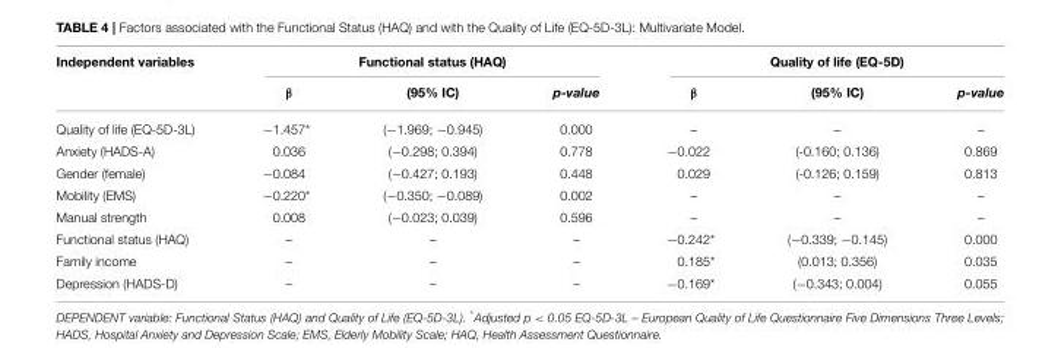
<table><thead><tr><td rowspan="2">Independent variables</td><td colspan="3">Functional status (HAQ)</td><td colspan="3">Quality of life (EQ-5D)</td></tr><tr><td>β</td><td>(95% IC)</td><td>p-value</td><td>β</td><td>(95% IC)</td><td>p-value</td></tr></thead><tbody><tr><td>Quality of life (EQ-5D-3L)</td><td>−1.457*</td><td>(−1.969; −0.945)</td><td>0.000</td><td>–</td><td>–</td><td>–</td></tr><tr><td>Anxiety (HADS-A)</td><td>0.036</td><td>(−0.298; 0.394)</td><td>0.778</td><td>−0.022</td><td>(-0.160; 0.136)</td><td>0.869</td></tr><tr><td>Gender (female)</td><td>−0.084</td><td>(−0.427; 0.193)</td><td>0.448</td><td>0.029</td><td>(-0.126; 0.159)</td><td>0.813</td></tr><tr><td>Mobility (EMS)</td><td>−0.220*</td><td>(−0.350; −0.089)</td><td>0.002</td><td>–</td><td>–</td><td>–</td></tr><tr><td>Manual strength</td><td>0.008</td><td>(−0.023; 0.039)</td><td>0.596</td><td>–</td><td>–</td><td>–</td></tr><tr><td>Functional status (HAQ)</td><td>–</td><td>–</td><td>–</td><td>−0.242*</td><td>(−0.339; −0.145)</td><td>0.000</td></tr><tr><td>Family income</td><td>–</td><td>–</td><td>–</td><td>0.185*</td><td>(0.013; 0.356)</td><td>0.035</td></tr><tr><td>Depression (HADS-D)</td><td>–</td><td>–</td><td>–</td><td>−0.169*</td><td>(−0.343; 0.004)</td><td>0.055</td></tr></tbody></table>